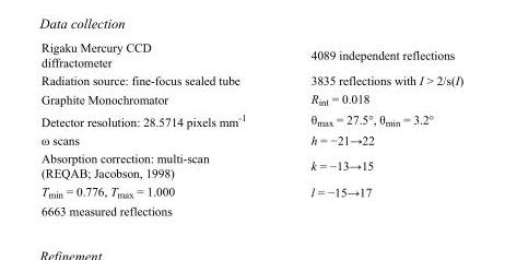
<table><tbody><tr><td>Rigaku Mercury CCD diffractometer</td><td>4089 independent reflections</td></tr><tr><td>Radiation source: fine-focus sealed tube</td><td>3835 reflections with I &gt; 2/s(I)</td></tr><tr><td>Graphite Monochromator</td><td>R<sub>int</sub> = 0.018</td></tr><tr><td>Detector resolution: 28.5714 pixels mm<sup>-1</sup></td><td>θ<sub>max</sub> = 27.5°, θ<sub>min</sub> = 3.2°</td></tr><tr><td>ω scans</td><td>h = −21→22</td></tr><tr><td>Absorption correction: multi-scan (REQAB; Jacobson, 1998)</td><td>k = −13→15</td></tr><tr><td>T<sub>min</sub> = 0.776, T<sub>max</sub> = 1.000</td><td>l = −15→17</td></tr><tr><td>6663 measured reflections</td><td></td></tr></tbody></table>